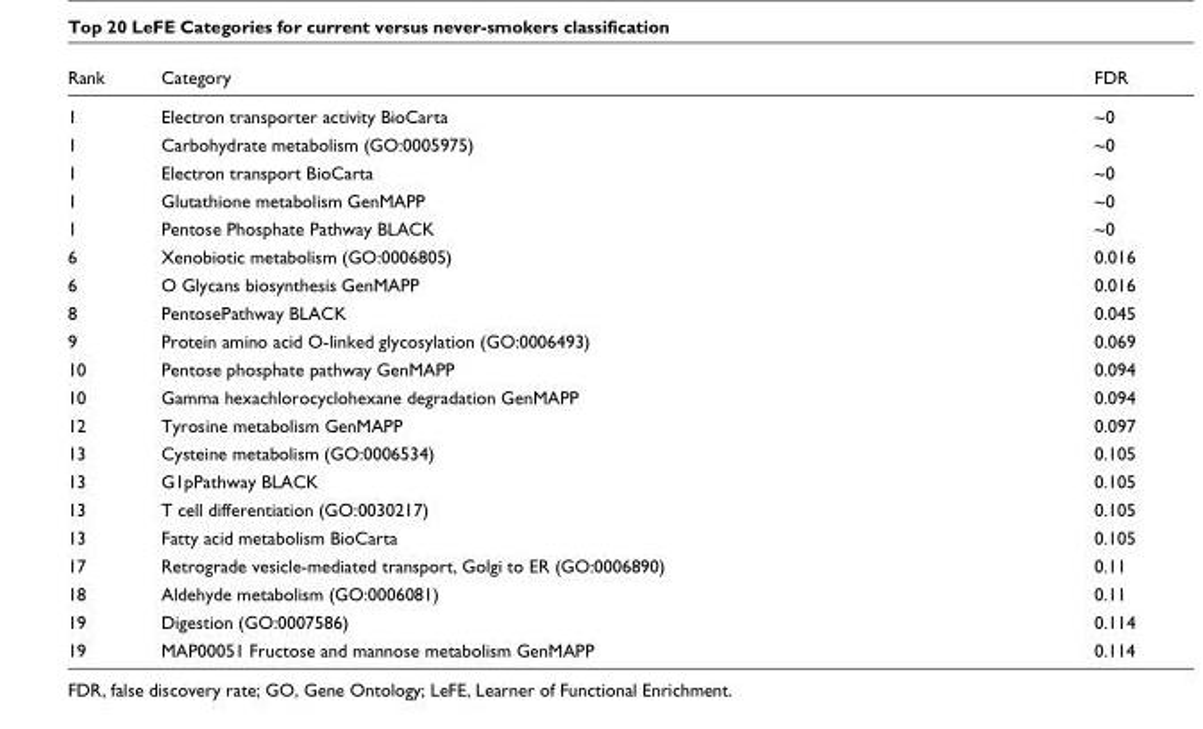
<table><thead><tr><td>Rank</td><td>Category</td><td>FDR</td></tr></thead><tbody><tr><td>1</td><td>Electron transporter activity BioCarta</td><td>~0</td></tr><tr><td>1</td><td>Carbohydrate metabolism (GO:0005975)</td><td>~0</td></tr><tr><td>1</td><td>Electron transport BioCarta</td><td>~0</td></tr><tr><td>1</td><td>Glutathione metabolism GenMAPP</td><td>~0</td></tr><tr><td>1</td><td>Pentose Phosphate Pathway BLACK</td><td>~0</td></tr><tr><td>6</td><td>Xenobiotic metabolism (GO:0006805)</td><td>0.016</td></tr><tr><td>6</td><td>O Glycans biosynthesis GenMAPP</td><td>0.016</td></tr><tr><td>8</td><td>PentosePathway BLACK</td><td>0.045</td></tr><tr><td>9</td><td>Protein amino acid O-linked glycosylation (GO:0006493)</td><td>0.069</td></tr><tr><td>10</td><td>Pentose phosphate pathway GenMAPP</td><td>0.094</td></tr><tr><td>10</td><td>Gamma hexachlorocyclohexane degradation GenMAPP</td><td>0.094</td></tr><tr><td>12</td><td>Tyrosine metabolism GenMAPP</td><td>0.097</td></tr><tr><td>13</td><td>Cysteine metabolism (GO:0006534)</td><td>0.105</td></tr><tr><td>13</td><td>G1pPathway BLACK</td><td>0.105</td></tr><tr><td>13</td><td>T cell differentiation (GO:0030217)</td><td>0.105</td></tr><tr><td>13</td><td>Fatty acid metabolism BioCarta</td><td>0.105</td></tr><tr><td>17</td><td>Retrograde vesicle-mediated transport, Golgi to ER (GO:0006890)</td><td>0.11</td></tr><tr><td>18</td><td>Aldehyde metabolism (GO:0006081)</td><td>0.11</td></tr><tr><td>19</td><td>Digestion (GO:0007586)</td><td>0.114</td></tr><tr><td>19</td><td>MAP00051 Fructose and mannose metabolism GenMAPP</td><td>0.114</td></tr></tbody></table>